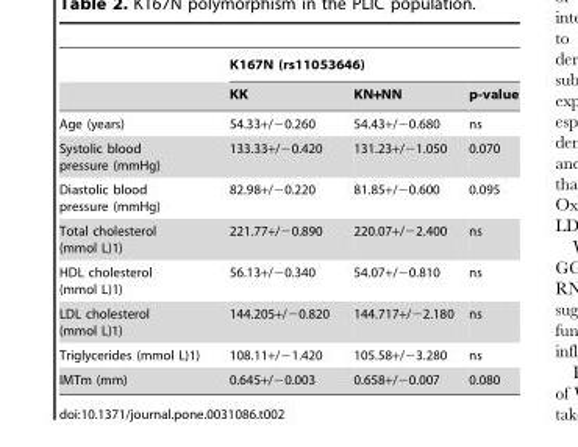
<table><thead><tr><td rowspan="2"></td><td colspan="3">K167N (rs11053646)</td></tr><tr><td>KK</td><td>KN+NN</td><td>p-value</td></tr></thead><tbody><tr><td>Age (years)</td><td>54.33+/−0.260</td><td>54.43+/−0.680</td><td>ns</td></tr><tr><td>Systolic blood pressure (mmHg)</td><td>133.33+/−0.420</td><td>131.23+/−1.050</td><td>0.070</td></tr><tr><td>Diastolic blood pressure (mmHg)</td><td>82.98+/−0.220</td><td>81.85+/−0.600</td><td>0.095</td></tr><tr><td>Total cholesterol (mmol L)1)</td><td>221.77+/−0.890</td><td>220.07+/−2.400</td><td>ns</td></tr><tr><td>HDL cholesterol (mmol L)1)</td><td>56.13+/−0.340</td><td>54.07+/−0.810</td><td>ns</td></tr><tr><td>LDL cholesterol (mmol L)1)</td><td>144.205+/−0.820</td><td>144.717+/−2.180</td><td>ns</td></tr><tr><td>Triglycerides (mmol L)1)</td><td>108.11+/−1.420</td><td>105.58+/−3.280</td><td>ns</td></tr><tr><td>IMTm (mm)</td><td>0.645+/−0.003</td><td>0.658+/−0.007</td><td>0.080</td></tr></tbody></table>